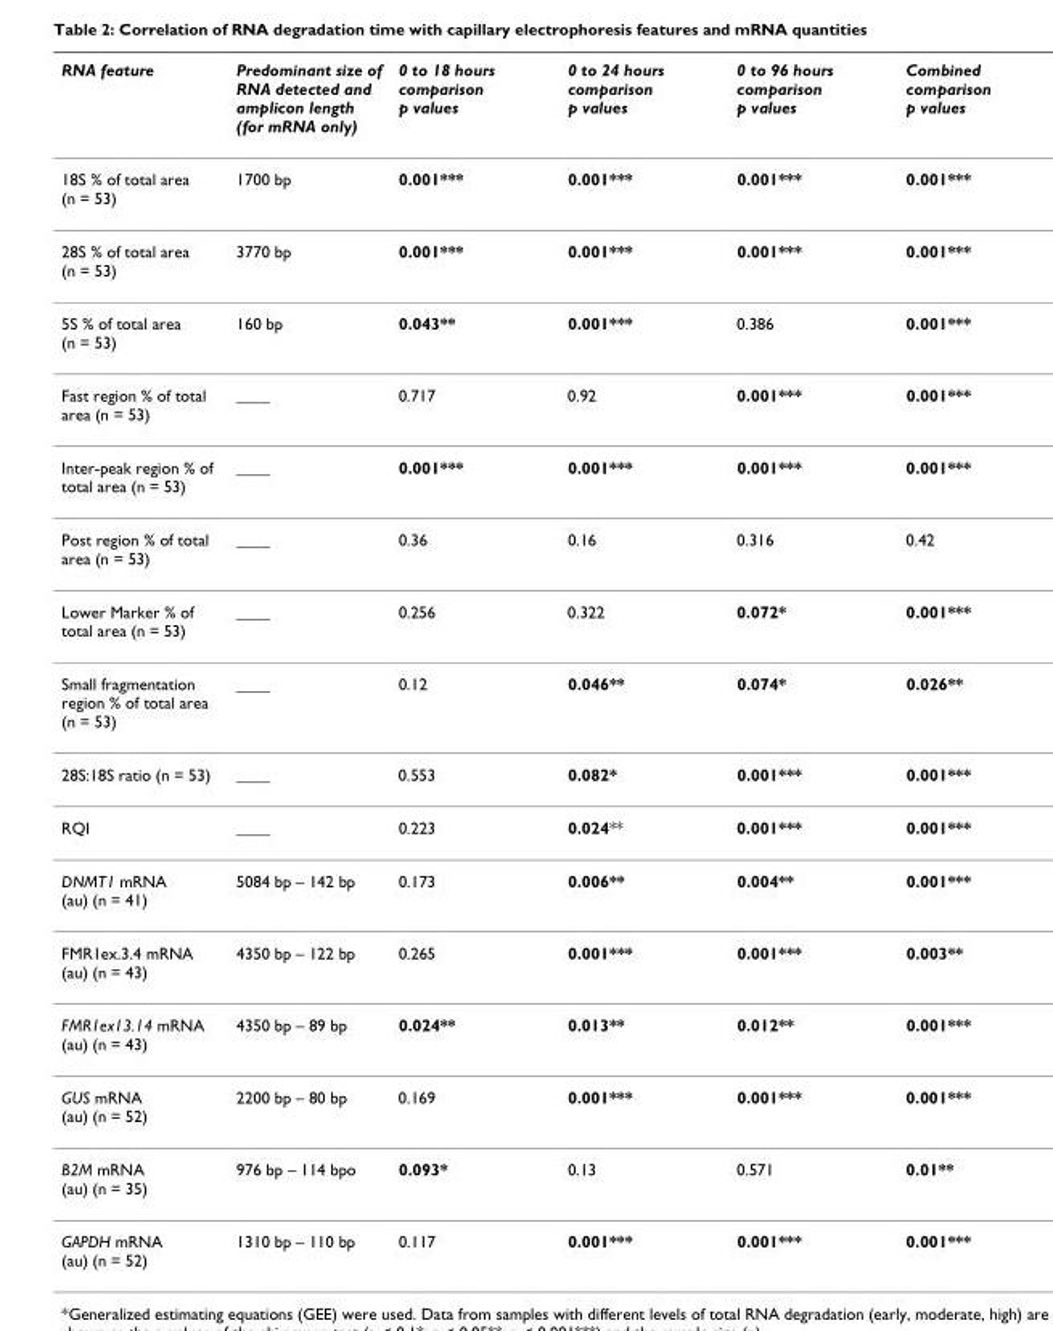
<table><thead><tr><td>RNA feature</td><td>Predominant size of RNA detected and amplicon length (for mRNA only)</td><td>0 to 18 hours comparison p values</td><td>0 to 24 hours comparison p values</td><td>0 to 96 hours comparison p values</td><td>Combined comparison p values</td></tr></thead><tbody><tr><td>18S % of total area (n = 53)</td><td>1700 bp</td><td>0.001***</td><td>0.001***</td><td>0.001***</td><td>0.001***</td></tr><tr><td>28S % of total area (n = 53)</td><td>3770 bp</td><td>0.001***</td><td>0.001***</td><td>0.001***</td><td>0.001***</td></tr><tr><td>5S % of total area (n = 53)</td><td>160 bp</td><td>0.043**</td><td>0.001***</td><td>0.386</td><td>0.001***</td></tr><tr><td>Fast region % of total area (n = 53)</td><td>____</td><td>0.717</td><td>0.92</td><td>0.001***</td><td>0.001***</td></tr><tr><td>Inter-peak region % of total area (n = 53)</td><td>____</td><td>0.001***</td><td>0.001***</td><td>0.001***</td><td>0.001***</td></tr><tr><td>Post region % of total area (n = 53)</td><td>____</td><td>0.36</td><td>0.16</td><td>0.316</td><td>0.42</td></tr><tr><td>Lower Marker % of total area (n = 53)</td><td>____</td><td>0.256</td><td>0.322</td><td>0.072*</td><td>0.001***</td></tr><tr><td>Small fragmentation region % of total area (n = 53)</td><td>____</td><td>0.12</td><td>0.046**</td><td>0.074*</td><td>0.026**</td></tr><tr><td>28S:18S ratio (n = 53)</td><td>____</td><td>0.553</td><td>0.082*</td><td>0.001***</td><td>0.001***</td></tr><tr><td>RQI</td><td>____</td><td>0.223</td><td>0.024**</td><td>0.001***</td><td>0.001***</td></tr><tr><td>DNMT1 mRNA (au) (n = 41)</td><td>5084 bp – 142 bp</td><td>0.173</td><td>0.006**</td><td>0.004**</td><td>0.001***</td></tr><tr><td>FMR1ex.3.4 mRNA (au) (n = 43)</td><td>4350 bp – 122 bp</td><td>0.265</td><td>0.001***</td><td>0.001***</td><td>0.003**</td></tr><tr><td>FMR1ex13.14 mRNA (au) (n = 43)</td><td>4350 bp – 89 bp</td><td>0.024**</td><td>0.013**</td><td>0.012**</td><td>0.001***</td></tr><tr><td>GUS mRNA (au) (n = 52)</td><td>2200 bp – 80 bp</td><td>0.169</td><td>0.001***</td><td>0.001***</td><td>0.001***</td></tr><tr><td>B2M mRNA (au) (n = 35)</td><td>976 bp – 114 bpo</td><td>0.093*</td><td>0.13</td><td>0.571</td><td>0.01**</td></tr><tr><td>GAPDH mRNA (au) (n = 52)</td><td>1310 bp – 110 bp</td><td>0.117</td><td>0.001***</td><td>0.001***</td><td>0.001***</td></tr></tbody></table>